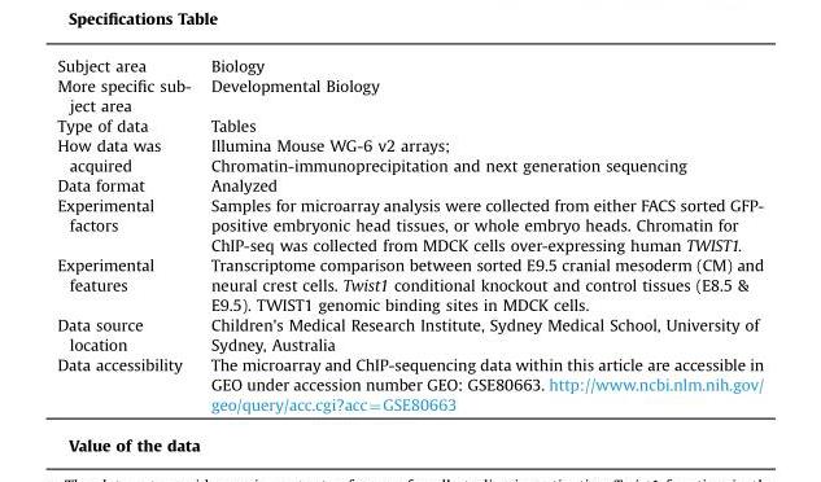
<table><tbody><tr><td>Subject area</td><td>Biology</td></tr><tr><td>More specific sub- ject area</td><td>Developmental Biology</td></tr><tr><td>Type of data</td><td>Tables</td></tr><tr><td rowspan="2">How data was acquired</td><td>Illumina Mouse WG-6 v2 arrays;</td></tr><tr><td>Chromatin-immunoprecipitation and next generation sequencing</td></tr><tr><td>Data format</td><td>Analyzed</td></tr><tr><td>Experimental factors</td><td>Samples for microarray analysis were collected from either FACS sorted GFP- positive embryonic head tissues, or whole embryo heads. Chromatin for ChIP-seq was collected from MDCK cells over-expressing human TWIST1.</td></tr><tr><td>Experimental features</td><td>Transcriptome comparison between sorted E9.5 cranial mesoderm (CM) and neural crest cells. Twist1 conditional knockout and control tissues (E8.5 &amp; E9.5). TWIST1 genomic binding sites in MDCK cells.</td></tr><tr><td>Data source location</td><td>Children&#x27;s Medical Research Institute, Sydney Medical School, University of Sydney, Australia</td></tr><tr><td>Data accessibility</td><td>The microarray and ChIP-sequencing data within this article are accessible in GEO under accession number GEO: GSE80663. http://www.ncbi.nlm.nih.gov/ geo/query/acc.cgi?acc=GSE80663</td></tr></tbody></table>